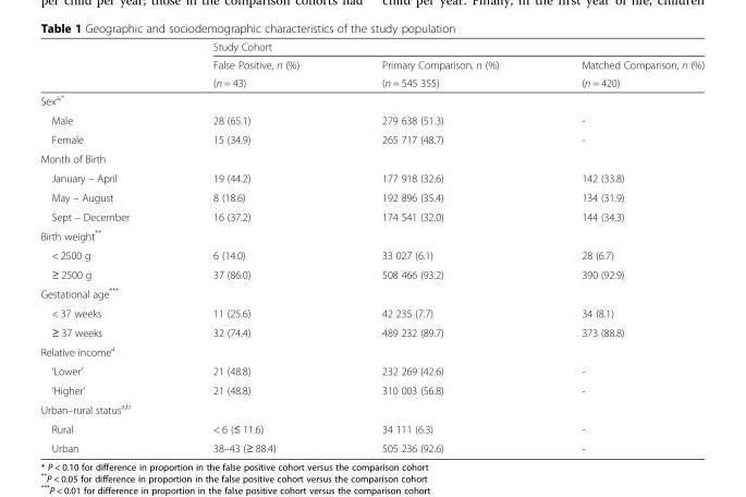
<table><thead><tr><td rowspan="3"></td><td colspan="3">Study Cohort</td></tr><tr><td rowspan="2">False Positive, n (%) (n = 43)</td><td rowspan="2">Primary Comparison, n (%) (n = 545 355)</td><td rowspan="2">Matched Comparison, n (%) (n = 420)</td></tr><tr></tr></thead><tbody><tr><td colspan="4">Sex<sup>a,*</sup></td></tr><tr><td>Male</td><td>28 (65.1)</td><td>279 638 (51.3)</td><td>-</td></tr><tr><td>Female</td><td>15 (34.9)</td><td>265 717 (48.7)</td><td>-</td></tr><tr><td colspan="4">Month of Birth</td></tr><tr><td>January – April</td><td>19 (44.2)</td><td>177 918 (32.6)</td><td>142 (33.8)</td></tr><tr><td>May – August</td><td>8 (18.6)</td><td>192 896 (35.4)</td><td>134 (31.9)</td></tr><tr><td>Sept – December</td><td>16 (37.2)</td><td>174 541 (32.0)</td><td>144 (34.3)</td></tr><tr><td colspan="4">Birth weight**</td></tr><tr><td>&lt; 2500 g</td><td>6 (14.0)</td><td>33 027 (6.1)</td><td>28 (6.7)</td></tr><tr><td>≥ 2500 g</td><td>37 (86.0)</td><td>508 466 (93.2)</td><td>390 (92.9)</td></tr><tr><td colspan="4">Gestational age***</td></tr><tr><td>&lt; 37 weeks</td><td>11 (25.6)</td><td>42 235 (7.7)</td><td>34 (8.1)</td></tr><tr><td>≥ 37 weeks</td><td>32 (74.4)</td><td>489 232 (89.7)</td><td>373 (88.8)</td></tr><tr><td colspan="4">Relative income<sup>a</sup></td></tr><tr><td>‘Lower’</td><td>21 (48.8)</td><td>232 269 (42.6)</td><td>-</td></tr><tr><td>‘Higher’</td><td>21 (48.8)</td><td>310 003 (56.8)</td><td>-</td></tr><tr><td colspan="4">Urban–rural status<sup>a,b</sup></td></tr><tr><td>Rural</td><td>&lt; 6 (≤ 11.6)</td><td>34 111 (6.3)</td><td>-</td></tr><tr><td>Urban</td><td>38–43 (≥ 88.4)</td><td>505 236 (92.6)</td><td>-</td></tr></tbody></table>